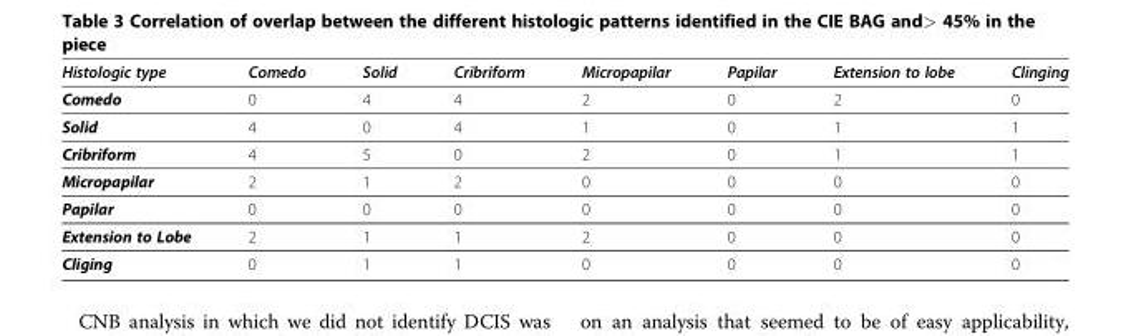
<table><thead><tr><td>Histologic type</td><td>Comedo</td><td>Solid</td><td>Cribriform</td><td>Micropapilar</td><td>Papilar</td><td>Extension to lobe</td><td>Clinging</td></tr></thead><tbody><tr><td>Comedo</td><td>0</td><td>4</td><td>4</td><td>2</td><td>0</td><td>2</td><td>0</td></tr><tr><td>Solid</td><td>4</td><td>0</td><td>4</td><td>1</td><td>0</td><td>1</td><td>1</td></tr><tr><td>Cribriform</td><td>4</td><td>5</td><td>0</td><td>2</td><td>0</td><td>1</td><td>1</td></tr><tr><td>Micropapilar</td><td>2</td><td>1</td><td>2</td><td>0</td><td>0</td><td>0</td><td>0</td></tr><tr><td>Papilar</td><td>0</td><td>0</td><td>0</td><td>0</td><td>0</td><td>0</td><td>0</td></tr><tr><td>Extension to Lobe</td><td>2</td><td>1</td><td>1</td><td>2</td><td>0</td><td>0</td><td>0</td></tr><tr><td>Cliging</td><td>0</td><td>1</td><td>1</td><td>0</td><td>0</td><td>0</td><td>0</td></tr></tbody></table>